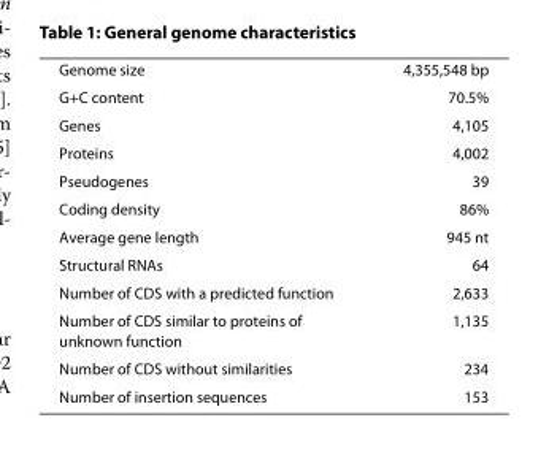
<table><tbody><tr><td>Genome size</td><td>4,355,548 bp</td></tr><tr><td>G+C content</td><td>70.5%</td></tr><tr><td>Genes</td><td>4,105</td></tr><tr><td>Proteins</td><td>4,002</td></tr><tr><td>Pseudogenes</td><td>39</td></tr><tr><td>Coding density</td><td>86%</td></tr><tr><td>Average gene length</td><td>945 nt</td></tr><tr><td>Structural RNAs</td><td>64</td></tr><tr><td>Number of CDS with a predicted function</td><td>2,633</td></tr><tr><td>Number of CDS similar to proteins of unknown function</td><td>1,135</td></tr><tr><td>Number of CDS without similarities</td><td>234</td></tr><tr><td>Number of insertion sequences</td><td>153</td></tr></tbody></table>